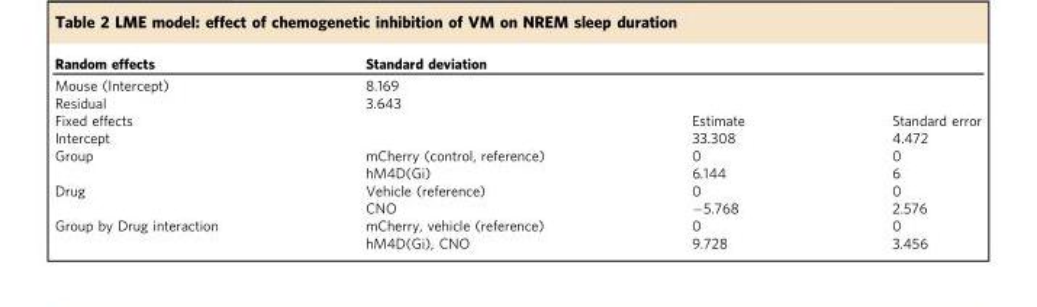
<table><thead><tr><td>Random effects</td><td>Standard deviation</td><td></td><td></td></tr></thead><tbody><tr><td>Mouse (Intercept)</td><td>8.169</td><td></td><td></td></tr><tr><td>Residual</td><td>3.643</td><td></td><td></td></tr><tr><td>Fixed effects</td><td></td><td>Estimate</td><td>Standard error</td></tr><tr><td>Intercept</td><td></td><td>33.308</td><td>4.472</td></tr><tr><td rowspan="2">Group</td><td>mCherry (control, reference)</td><td>0</td><td>0</td></tr><tr><td>hM4D(Gi)</td><td>6.144</td><td>6</td></tr><tr><td rowspan="2">Drug</td><td>Vehicle (reference)</td><td>0</td><td>0</td></tr><tr><td>CNO</td><td>−5.768</td><td>2.576</td></tr><tr><td rowspan="2">Group by Drug interaction</td><td>mCherry, vehicle (reference)</td><td>0</td><td>0</td></tr><tr><td>hM4D(Gi), CNO</td><td>9.728</td><td>3.456</td></tr></tbody></table>